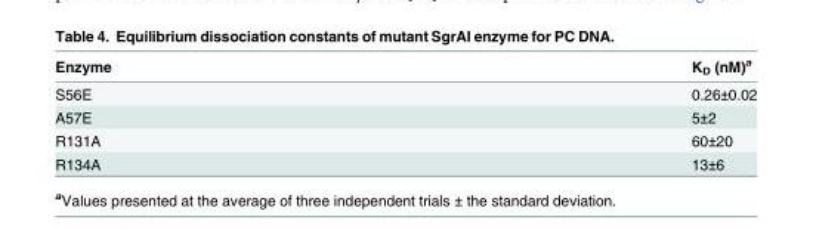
<table><thead><tr><td>Enzyme</td><td>K<sub>D</sub> (nM)<sup>a</sup></td></tr></thead><tbody><tr><td>S56E</td><td>0.26±0.02</td></tr><tr><td>A57E</td><td>5±2</td></tr><tr><td>R131A</td><td>60±20</td></tr><tr><td>R134A</td><td>13±6</td></tr></tbody></table>